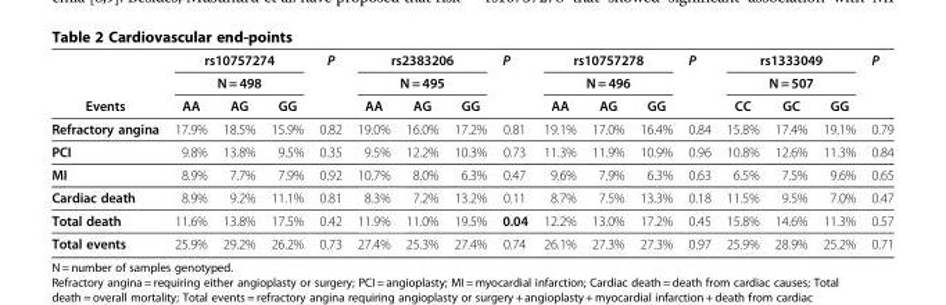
<table><thead><tr><td rowspan="3">Events</td><td rowspan="2" colspan="3">rs10757274 N = 498</td><td rowspan="3">P</td><td rowspan="2" colspan="3">rs2383206 N = 495</td><td rowspan="3">P</td><td rowspan="2" colspan="3">rs10757278 N = 496</td><td rowspan="3">P</td><td rowspan="2" colspan="3">rs1333049 N = 507</td><td rowspan="3">P</td></tr><tr></tr><tr><td>AA</td><td>AG</td><td>GG</td><td>AA</td><td>AG</td><td>GG</td><td>AA</td><td>AG</td><td>GG</td><td>CC</td><td>GC</td><td>GG</td></tr></thead><tbody><tr><td>Refractory angina</td><td>17.9%</td><td>18.5%</td><td>15.9%</td><td>0.82</td><td>19.0%</td><td>16.0%</td><td>17.2%</td><td>0.81</td><td>19.1%</td><td>17.0%</td><td>16.4%</td><td>0.84</td><td>15.8%</td><td>17.4%</td><td>19.1%</td><td>0.79</td></tr><tr><td>PCI</td><td>9.8%</td><td>13.8%</td><td>9.5%</td><td>0.35</td><td>9.5%</td><td>12.2%</td><td>10.3%</td><td>0.73</td><td>11.3%</td><td>11.9%</td><td>10.9%</td><td>0.96</td><td>10.8%</td><td>12.6%</td><td>11.3%</td><td>0.84</td></tr><tr><td>MI</td><td>8.9%</td><td>7.7%</td><td>7.9%</td><td>0.92</td><td>10.7%</td><td>8.0%</td><td>6.3%</td><td>0.47</td><td>9.6%</td><td>7.9%</td><td>6.3%</td><td>0.63</td><td>6.5%</td><td>7.5%</td><td>9.6%</td><td>0.65</td></tr><tr><td>Cardiac death</td><td>8.9%</td><td>9.2%</td><td>11.1%</td><td>0.81</td><td>8.3%</td><td>7.2%</td><td>13.2%</td><td>0.11</td><td>8.7%</td><td>7.5%</td><td>13.3%</td><td>0.18</td><td>11.5%</td><td>9.5%</td><td>7.0%</td><td>0.47</td></tr><tr><td>Total death</td><td>11.6%</td><td>13.8%</td><td>17.5%</td><td>0.42</td><td>11.9%</td><td>11.0%</td><td>19.5%</td><td>0.04</td><td>12.2%</td><td>13.0%</td><td>17.2%</td><td>0.45</td><td>15.8%</td><td>14.6%</td><td>11.3%</td><td>0.57</td></tr><tr><td>Total events</td><td>25.9%</td><td>29.2%</td><td>26.2%</td><td>0.73</td><td>27.4%</td><td>25.3%</td><td>27.4%</td><td>0.74</td><td>26.1%</td><td>27.3%</td><td>27.3%</td><td>0.97</td><td>25.9%</td><td>28.9%</td><td>25.2%</td><td>0.71</td></tr></tbody></table>